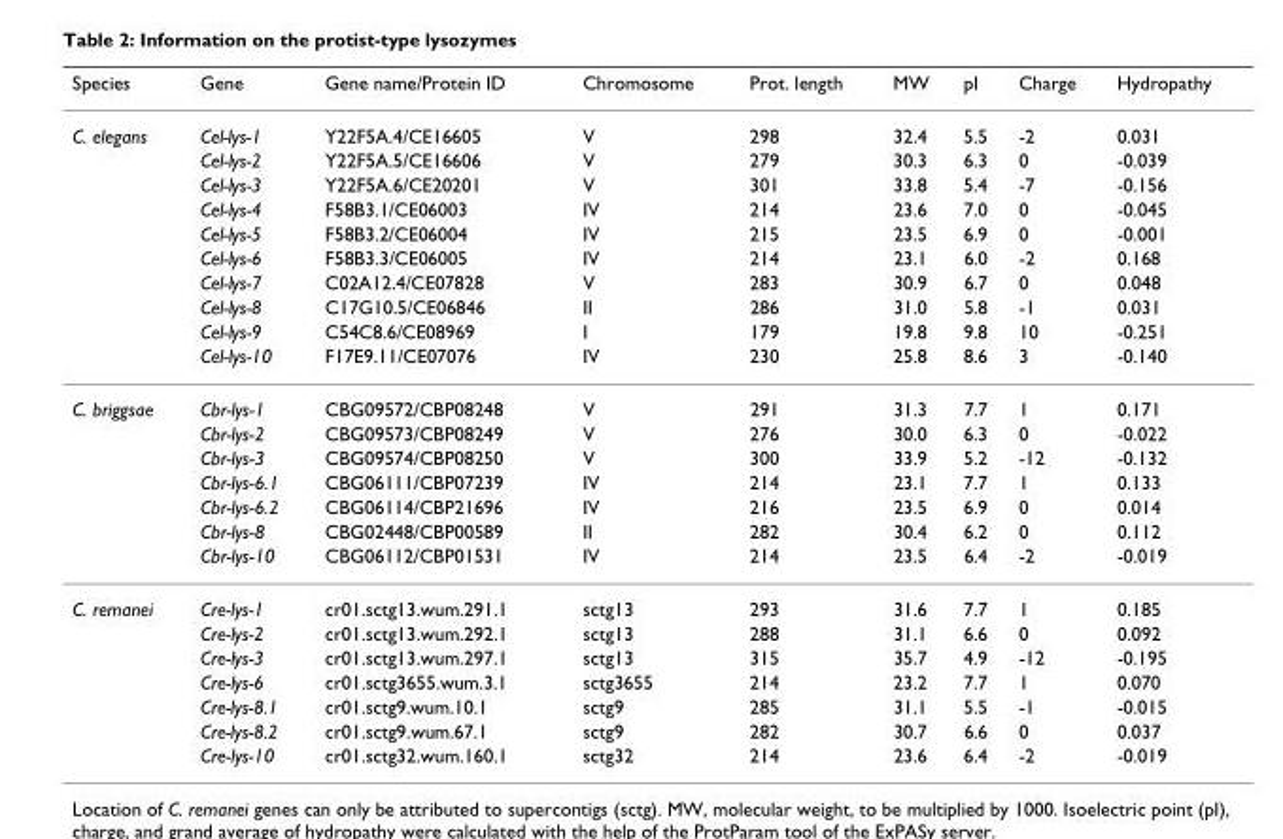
<table><thead><tr><td>Species</td><td>Gene</td><td>Gene name/Protein ID</td><td>Chromosome</td><td>Prot. length</td><td>MW</td><td>pI</td><td>Charge</td><td>Hydropathy</td></tr></thead><tbody><tr><td rowspan="10">C. elegans</td><td>Cel-lys-1</td><td>Y22F5A.4/CE16605</td><td>V</td><td>298</td><td>32.4</td><td>5.5</td><td>-2</td><td>0.031</td></tr><tr><td>Cel-lys-2</td><td>Y22F5A.5/CE16606</td><td>V</td><td>279</td><td>30.3</td><td>6.3</td><td>0</td><td>-0.039</td></tr><tr><td>Cel-lys-3</td><td>Y22F5A.6/CE20201</td><td>V</td><td>301</td><td>33.8</td><td>5.4</td><td>-7</td><td>-0.156</td></tr><tr><td>Cel-lys-4</td><td>F58B3.1/CE06003</td><td>IV</td><td>214</td><td>23.6</td><td>7.0</td><td>0</td><td>-0.045</td></tr><tr><td>Cel-lys-5</td><td>F58B3.2/CE06004</td><td>IV</td><td>215</td><td>23.5</td><td>6.9</td><td>0</td><td>-0.001</td></tr><tr><td>Cel-lys-6</td><td>F58B3.3/CE06005</td><td>IV</td><td>214</td><td>23.1</td><td>6.0</td><td>-2</td><td>0.168</td></tr><tr><td>Cel-lys-7</td><td>C02A12.4/CE07828</td><td>V</td><td>283</td><td>30.9</td><td>6.7</td><td>0</td><td>0.048</td></tr><tr><td>Cel-lys-8</td><td>C17G10.5/CE06846</td><td>II</td><td>286</td><td>31.0</td><td>5.8</td><td>-1</td><td>0.031</td></tr><tr><td>Cel-lys-9</td><td>C54C8.6/CE08969</td><td>I</td><td>179</td><td>19.8</td><td>9.8</td><td>10</td><td>-0.251</td></tr><tr><td>Cel-lys-10</td><td>F17E9.11/CE07076</td><td>IV</td><td>230</td><td>25.8</td><td>8.6</td><td>3</td><td>-0.140</td></tr><tr><td rowspan="7">C. briggsae</td><td>Cbr-lys-1</td><td>CBG09572/CBP08248</td><td>V</td><td>291</td><td>31.3</td><td>7.7</td><td>1</td><td>0.171</td></tr><tr><td>Cbr-lys-2</td><td>CBG09573/CBP08249</td><td>V</td><td>276</td><td>30.0</td><td>6.3</td><td>0</td><td>-0.022</td></tr><tr><td>Cbr-lys-3</td><td>CBG09574/CBP08250</td><td>V</td><td>300</td><td>33.9</td><td>5.2</td><td>-12</td><td>-0.132</td></tr><tr><td>Cbr-lys-6.1</td><td>CBG06111/CBP07239</td><td>IV</td><td>214</td><td>23.1</td><td>7.7</td><td>1</td><td>0.133</td></tr><tr><td>Cbr-lys-6.2</td><td>CBG06114/CBP21696</td><td>IV</td><td>216</td><td>23.5</td><td>6.9</td><td>0</td><td>0.014</td></tr><tr><td>Cbr-lys-8</td><td>CBG02448/CBP00589</td><td>II</td><td>282</td><td>30.4</td><td>6.2</td><td>0</td><td>0.112</td></tr><tr><td>Cbr-lys-10</td><td>CBG06112/CBP01531</td><td>IV</td><td>214</td><td>23.5</td><td>6.4</td><td>-2</td><td>-0.019</td></tr><tr><td rowspan="7">C. remanei</td><td>Cre-lys-1</td><td>cr01.sctg13.wum.291.1</td><td>sctg13</td><td>293</td><td>31.6</td><td>7.7</td><td>1</td><td>0.185</td></tr><tr><td>Cre-lys-2</td><td>cr01.sctg13.wum.292.1</td><td>sctg13</td><td>288</td><td>31.1</td><td>6.6</td><td>0</td><td>0.092</td></tr><tr><td>Cre-lys-3</td><td>cr01.sctg13.wum.297.1</td><td>sctg13</td><td>315</td><td>35.7</td><td>4.9</td><td>-12</td><td>-0.195</td></tr><tr><td>Cre-lys-6</td><td>cr01.sctg3655.wum.3.1</td><td>sctg3655</td><td>214</td><td>23.2</td><td>7.7</td><td>1</td><td>0.070</td></tr><tr><td>Cre-lys-8.1</td><td>cr01.sctg9.wum.10.1</td><td>sctg9</td><td>285</td><td>31.1</td><td>5.5</td><td>-1</td><td>-0.015</td></tr><tr><td>Cre-lys-8.2</td><td>cr01.sctg9.wum.67.1</td><td>sctg9</td><td>282</td><td>30.7</td><td>6.6</td><td>0</td><td>0.037</td></tr><tr><td>Cre-lys-10</td><td>cr01.sctg32.wum.160.1</td><td>sctg32</td><td>214</td><td>23.6</td><td>6.4</td><td>-2</td><td>-0.019</td></tr></tbody></table>